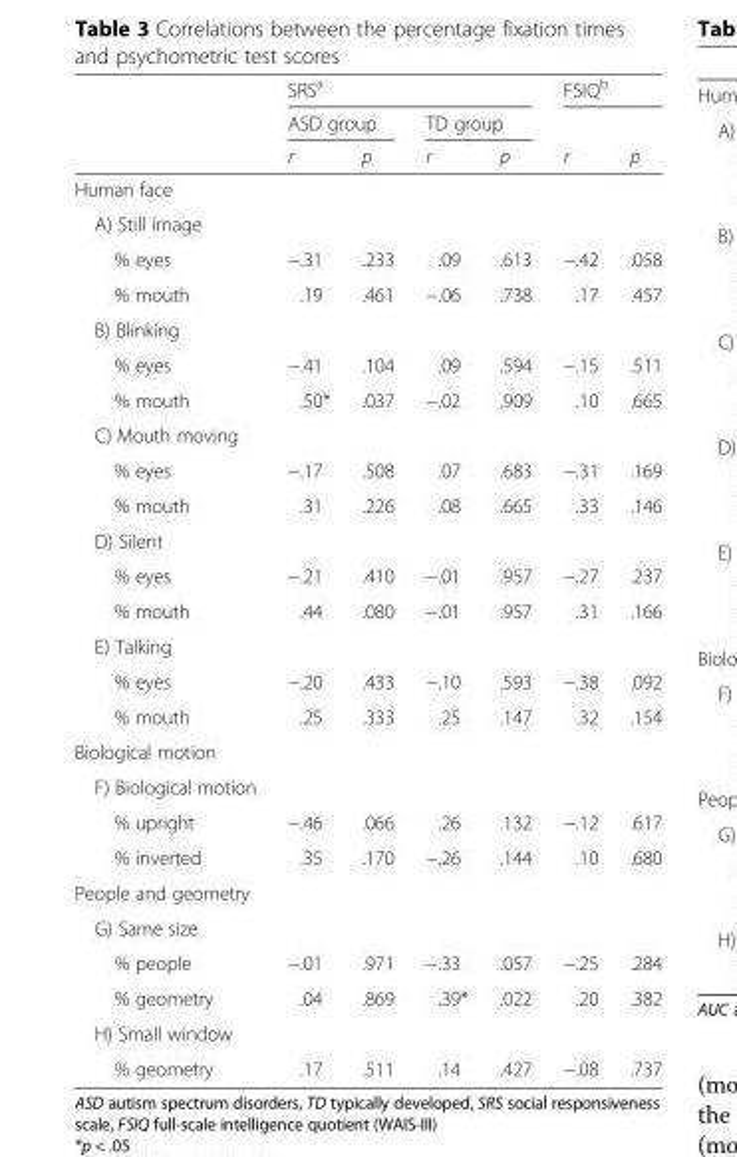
<table><thead><tr><td rowspan="3"></td><td colspan="4">SRS<sup>a</sup></td><td colspan="2">FSIQ<sup>b</sup></td></tr><tr><td colspan="2">ASD group</td><td colspan="2">TD group</td><td rowspan="2">r</td><td rowspan="2">p</td></tr><tr><td>r</td><td>p</td><td>r</td><td>p</td></tr></thead><tbody><tr><td colspan="7">Human face</td></tr><tr><td colspan="7">A) Still image</td></tr><tr><td>% eyes</td><td>−.31</td><td>.233</td><td>.09</td><td>.613</td><td>−.42</td><td>.058</td></tr><tr><td>% mouth</td><td>.19</td><td>.461</td><td>−.06</td><td>.738</td><td>.17</td><td>.457</td></tr><tr><td colspan="7">B) Blinking</td></tr><tr><td>% eyes</td><td>−.41</td><td>.104</td><td>.09</td><td>.594</td><td>−.15</td><td>.511</td></tr><tr><td>% mouth</td><td>.50*</td><td>.037</td><td>−.02</td><td>.909</td><td>.10</td><td>.665</td></tr><tr><td colspan="7">C) Mouth moving</td></tr><tr><td>% eyes</td><td>−.17</td><td>.508</td><td>.07</td><td>.683</td><td>−.31</td><td>.169</td></tr><tr><td>% mouth</td><td>.31</td><td>.226</td><td>.08</td><td>.665</td><td>.33</td><td>.146</td></tr><tr><td colspan="7">D) Silent</td></tr><tr><td>% eyes</td><td>−.21</td><td>.410</td><td>−.01</td><td>.957</td><td>−.27</td><td>.237</td></tr><tr><td>% mouth</td><td>.44</td><td>.080</td><td>−.01</td><td>.957</td><td>.31</td><td>.166</td></tr><tr><td colspan="7">E) Talking</td></tr><tr><td>% eyes</td><td>−.20</td><td>.433</td><td>−.10</td><td>.593</td><td>−.38</td><td>.092</td></tr><tr><td>% mouth</td><td>.25</td><td>.333</td><td>.25</td><td>.147</td><td>.32</td><td>.154</td></tr><tr><td colspan="7">Biological motion</td></tr><tr><td colspan="7">F) Biological motion</td></tr><tr><td>% upright</td><td>−.46</td><td>.066</td><td>.26</td><td>.132</td><td>−.12</td><td>.617</td></tr><tr><td>% inverted</td><td>.35</td><td>.170</td><td>−.26</td><td>.144</td><td>.10</td><td>.680</td></tr><tr><td colspan="7">People and geometry</td></tr><tr><td colspan="7">G) Same size</td></tr><tr><td>% people</td><td>−.01</td><td>.971</td><td>−.33</td><td>.057</td><td>−.25</td><td>.284</td></tr><tr><td>% geometry</td><td>.04</td><td>.869</td><td>.39*</td><td>.022</td><td>.20</td><td>.382</td></tr><tr><td colspan="7">H) Small window</td></tr><tr><td>% geometry</td><td>.17</td><td>.511</td><td>.14</td><td>.427</td><td>−.08</td><td>.737</td></tr></tbody></table>